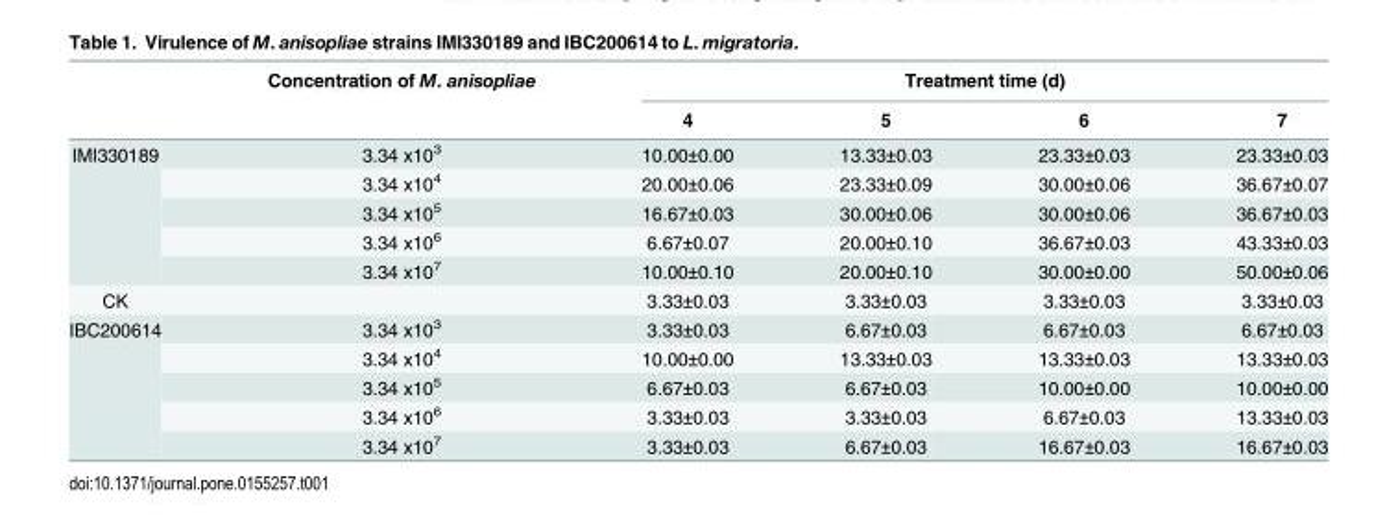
<table><thead><tr><td rowspan="2"></td><td rowspan="2">Concentration of M. anisopliae</td><td colspan="4">Treatment time (d)</td></tr><tr><td>4</td><td>5</td><td>6</td><td>7</td></tr></thead><tbody><tr><td rowspan="5">IMI330189</td><td>3.34 x10<sup>3</sup></td><td>10.00±0.00</td><td>13.33±0.03</td><td>23.33±0.03</td><td>23.33±0.03</td></tr><tr><td>3.34 x10<sup>4</sup></td><td>20.00±0.06</td><td>23.33±0.09</td><td>30.00±0.06</td><td>36.67±0.07</td></tr><tr><td>3.34 x10<sup>5</sup></td><td>16.67±0.03</td><td>30.00±0.06</td><td>30.00±0.06</td><td>36.67±0.03</td></tr><tr><td>3.34 x10<sup>6</sup></td><td>6.67±0.07</td><td>20.00±0.10</td><td>36.67±0.03</td><td>43.33±0.03</td></tr><tr><td>3.34 x10<sup>7</sup></td><td>10.00±0.10</td><td>20.00±0.10</td><td>30.00±0.00</td><td>50.00±0.06</td></tr><tr><td>CK</td><td></td><td>3.33±0.03</td><td>3.33±0.03</td><td>3.33±0.03</td><td>3.33±0.03</td></tr><tr><td rowspan="5">IBC200614</td><td>3.34 x10<sup>3</sup></td><td>3.33±0.03</td><td>6.67±0.03</td><td>6.67±0.03</td><td>6.67±0.03</td></tr><tr><td>3.34 x10<sup>4</sup></td><td>10.00±0.00</td><td>13.33±0.03</td><td>13.33±0.03</td><td>13.33±0.03</td></tr><tr><td>3.34 x10<sup>5</sup></td><td>6.67±0.03</td><td>6.67±0.03</td><td>10.00±0.00</td><td>10.00±0.00</td></tr><tr><td>3.34 x10<sup>6</sup></td><td>3.33±0.03</td><td>3.33±0.03</td><td>6.67±0.03</td><td>13.33±0.03</td></tr><tr><td>3.34 x10<sup>7</sup></td><td>3.33±0.03</td><td>6.67±0.03</td><td>16.67±0.03</td><td>16.67±0.03</td></tr></tbody></table>